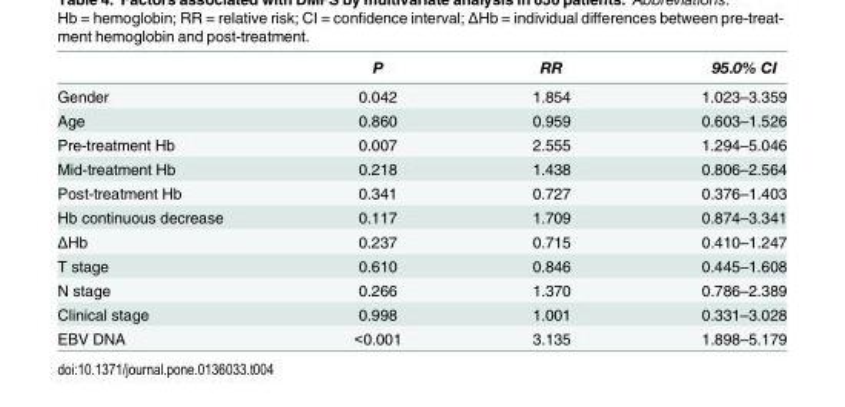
<table><thead><tr><td></td><td>P</td><td>RR</td><td>95.0% CI</td></tr></thead><tbody><tr><td>Gender</td><td>0.042</td><td>1.854</td><td>1.023–3.359</td></tr><tr><td>Age</td><td>0.860</td><td>0.959</td><td>0.603–1.526</td></tr><tr><td>Pre-treatment Hb</td><td>0.007</td><td>2.555</td><td>1.294–5.046</td></tr><tr><td>Mid-treatment Hb</td><td>0.218</td><td>1.438</td><td>0.806–2.564</td></tr><tr><td>Post-treatment Hb</td><td>0.341</td><td>0.727</td><td>0.376–1.403</td></tr><tr><td>Hb continuous decrease</td><td>0.117</td><td>1.709</td><td>0.874–3.341</td></tr><tr><td>ΔHb</td><td>0.237</td><td>0.715</td><td>0.410–1.247</td></tr><tr><td>T stage</td><td>0.610</td><td>0.846</td><td>0.445–1.608</td></tr><tr><td>N stage</td><td>0.266</td><td>1.370</td><td>0.786–2.389</td></tr><tr><td>Clinical stage</td><td>0.998</td><td>1.001</td><td>0.331–3.028</td></tr><tr><td>EBV DNA</td><td>&lt;0.001</td><td>3.135</td><td>1.898–5.179</td></tr></tbody></table>